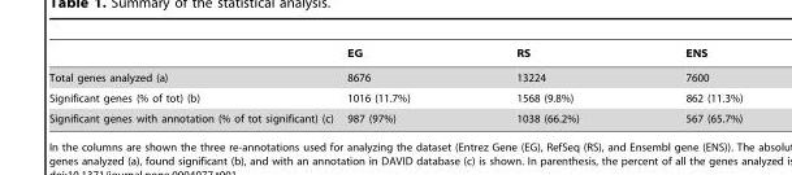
<table><thead><tr><td></td><td>EG</td><td>RS</td><td>ENS</td></tr></thead><tbody><tr><td>Total genes analyzed (a)</td><td>8676</td><td>13224</td><td>7600</td></tr><tr><td>Significant genes (% of tot) (b)</td><td>1016 (11.7%)</td><td>1568 (9.8%)</td><td>862 (11.3%)</td></tr><tr><td>Significant genes with annotation (% of tot significant) (c)</td><td>987 (97%)</td><td>1038 (66.2%)</td><td>567 (65.7%)</td></tr></tbody></table>